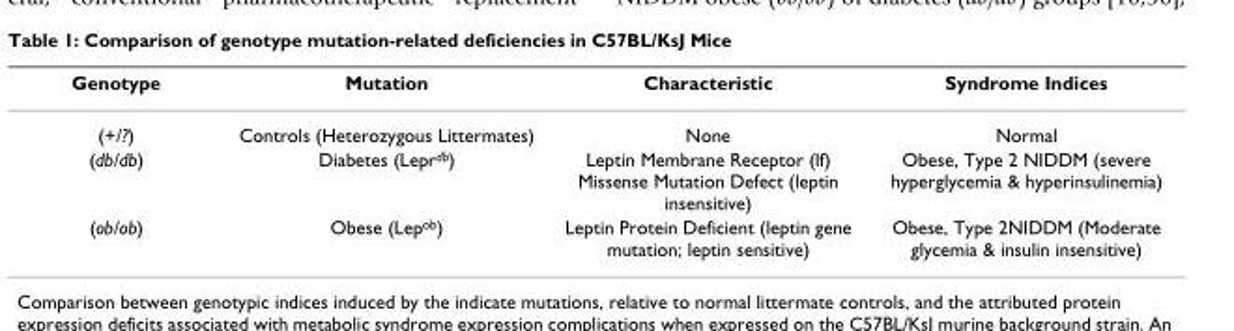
<table><thead><tr><td>Genotype</td><td>Mutation</td><td>Characteristic</td><td>Syndrome Indices</td></tr></thead><tbody><tr><td>(+/?)</td><td>Controls (Heterozygous Littermates)</td><td>None</td><td>Normal</td></tr><tr><td>(db/db)</td><td>Diabetes (Leprdb)</td><td>Leptin Membrane Receptor (lf) Missense Mutation Defect (leptin insensitive)</td><td>Obese, Type 2 NIDDM (severe hyperglycemia &amp; hyperinsulinemia)</td></tr><tr><td>(ob/ob)</td><td>Obese (Lepob)</td><td>Leptin Protein Deficient (leptin gene mutation; leptin sensitive)</td><td>Obese, Type 2NIDDM (Moderate glycemia &amp; insulin insensitive)</td></tr></tbody></table>